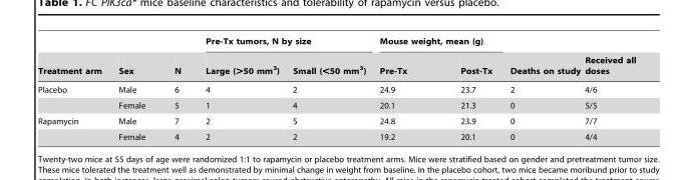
<table><thead><tr><td rowspan="2">Treatment arm</td><td rowspan="2">Sex</td><td rowspan="2">N</td><td colspan="2">Pre-Tx tumors, N by size</td><td colspan="2">Mouse weight, mean (g)</td><td rowspan="2">Deaths on study</td><td rowspan="2">Received all doses</td></tr><tr><td>Large (&gt;50 mm<sup>3</sup>)</td><td>Small (&lt;50 mm<sup>3</sup>)</td><td>Pre-Tx</td><td>Post-Tx</td></tr></thead><tbody><tr><td rowspan="2">Placebo</td><td>Male</td><td>6</td><td>4</td><td>2</td><td>24.9</td><td>23.7</td><td>2</td><td>4/6</td></tr><tr><td>Female</td><td>5</td><td>1</td><td>4</td><td>20.1</td><td>21.3</td><td>0</td><td>5/5</td></tr><tr><td rowspan="2">Rapamycin</td><td>Male</td><td>7</td><td>2</td><td>5</td><td>24.8</td><td>23.9</td><td>0</td><td>7/7</td></tr><tr><td>Female</td><td>4</td><td>2</td><td>2</td><td>19.2</td><td>20.1</td><td>0</td><td>4/4</td></tr></tbody></table>